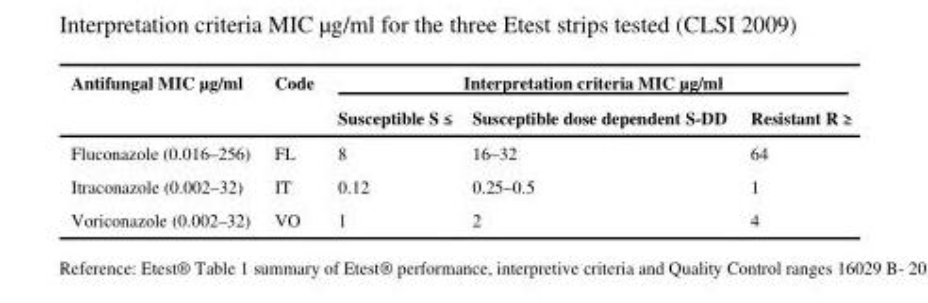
<table><thead><tr><td rowspan="2">Antifungal MIC μg/ml</td><td rowspan="2">Code</td><td colspan="3">Interpretation criteria MIC μg/ml</td></tr><tr><td>Susceptible S≤</td><td>Susceptible dose dependent S-DD</td><td>Resistant R≥</td></tr></thead><tbody><tr><td>Fluconazole (0.016–256)</td><td>FL</td><td>8</td><td>16–32</td><td>64</td></tr><tr><td>Itraconazole (0.002–32)</td><td>IT</td><td>0.12</td><td>0.25–0.5</td><td>1</td></tr><tr><td>Voriconazole (0.002–32)</td><td>VO</td><td>1</td><td>2</td><td>4</td></tr></tbody></table>